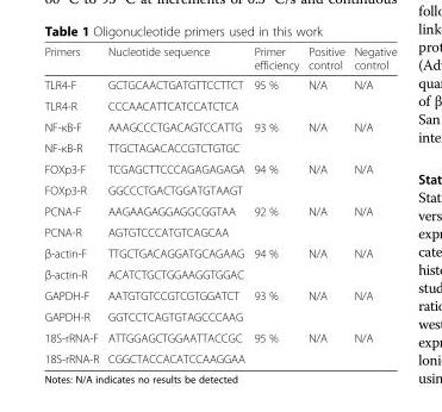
<table><thead><tr><td>Primers</td><td>Nucleotide sequence</td><td>Primer efficiency</td><td>Positive control</td><td>Negative control</td></tr></thead><tbody><tr><td>TLR4-F</td><td>GCTGCAACTGATGTTCCTTCT</td><td rowspan="2">95 %</td><td rowspan="2">N/A</td><td rowspan="2">N/A</td></tr><tr><td>TLR4-R</td><td>CCCAACATTCATCCATCTCA</td></tr><tr><td>NF-κB-F</td><td>AAAGCCCTGACAGTCCATTG</td><td rowspan="2">93 %</td><td rowspan="2">N/A</td><td rowspan="2">N/A</td></tr><tr><td>NF-κB-R</td><td>TTGCTAGACACCGTCTGTGC</td></tr><tr><td>FOXp3-F</td><td>TCGAGCTTCCCAGAGAGAGA</td><td rowspan="2">94 %</td><td rowspan="2">N/A</td><td rowspan="2">N/A</td></tr><tr><td>FOXp3-R</td><td>GGCCCTGACTGGATGTAAGT</td></tr><tr><td>PCNA-F</td><td>AAGAAGAGGAGGCGGTAA</td><td rowspan="2">92 %</td><td rowspan="2">N/A</td><td rowspan="2">N/A</td></tr><tr><td>PCNA-R</td><td>AGTGTCCCATGTCAGCAA</td></tr><tr><td>β-actin-F</td><td>TTGCTGACAGGATGCAGAAG</td><td rowspan="2">94 %</td><td rowspan="2">N/A</td><td rowspan="2">N/A</td></tr><tr><td>β-actin-R</td><td>ACATCTGCTGGAAGGTGGAC</td></tr><tr><td>GAPDH-F</td><td>AATGTGTCCGTCGTGGATCT</td><td rowspan="2">93 %</td><td rowspan="2">N/A</td><td rowspan="2">N/A</td></tr><tr><td>GAPDH-R</td><td>GGTCCTCAGTGTAGCCCAAG</td></tr><tr><td>18S-rRNA-F</td><td>ATTGGAGCTGGAATTACCGC</td><td rowspan="2">95 %</td><td rowspan="2">N/A</td><td rowspan="2">N/A</td></tr><tr><td>18S-rRNA-R</td><td>CGGCTACCACATCCAAGGAA</td></tr></tbody></table>